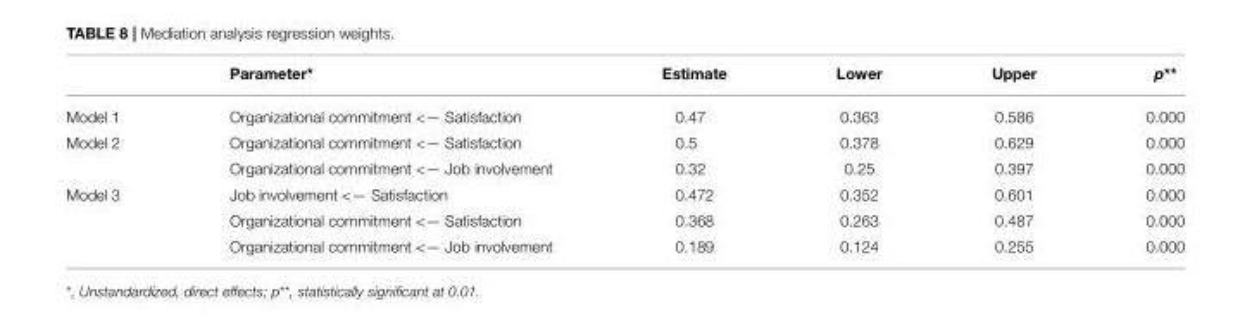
<table><thead><tr><td></td><td>Parameter*</td><td>Estimate</td><td>Lower</td><td>Upper</td><td>p**</td></tr></thead><tbody><tr><td>Model 1</td><td>Organizational commitment &lt;— Satisfaction</td><td>0.47</td><td>0.363</td><td>0.586</td><td>0.000</td></tr><tr><td rowspan="2">Model 2</td><td>Organizational commitment &lt;— Satisfaction</td><td>0.5</td><td>0.378</td><td>0.629</td><td>0.000</td></tr><tr><td>Organizational commitment &lt;— Job involvement</td><td>0.32</td><td>0.25</td><td>0.397</td><td>0.000</td></tr><tr><td rowspan="3">Model 3</td><td>Job involvement &lt;— Satisfaction</td><td>0.472</td><td>0.352</td><td>0.601</td><td>0.000</td></tr><tr><td>Organizational commitment &lt;— Satisfaction</td><td>0.368</td><td>0.263</td><td>0.487</td><td>0.000</td></tr><tr><td>Organizational commitment &lt;— Job involvement</td><td>0.189</td><td>0.124</td><td>0.255</td><td>0.000</td></tr></tbody></table>